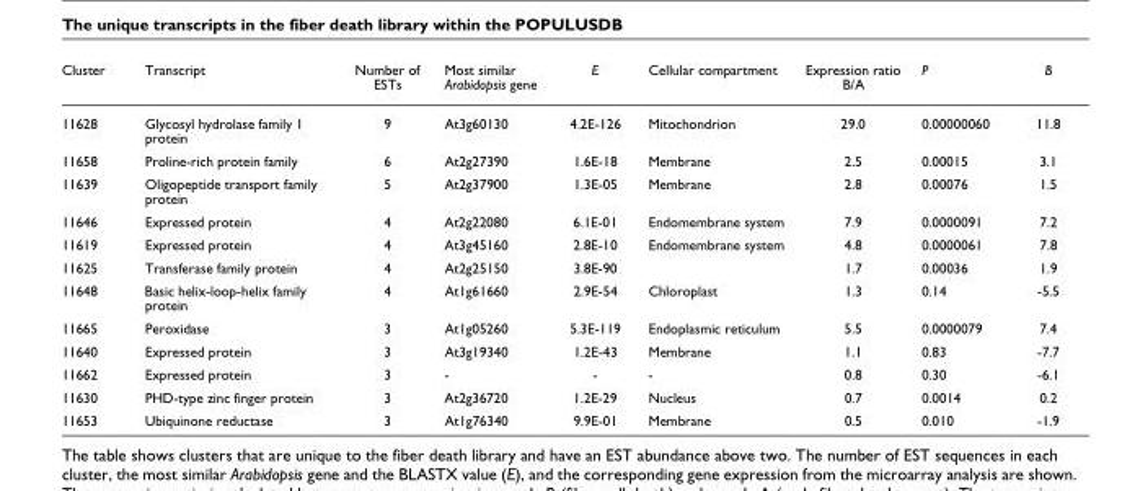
<table><thead><tr><td>Cluster</td><td>Transcript</td><td>Number of ESTs</td><td>Most similar Arabidopsis gene</td><td>E</td><td>Cellular compartment</td><td>Expression ratio B/A</td><td>P</td><td>B</td></tr></thead><tbody><tr><td>11628</td><td>Glycosyl hydrolase family 1 protein</td><td>9</td><td>At3g60130</td><td>4.2E-126</td><td>Mitochondrion</td><td>29.0</td><td>0.00000060</td><td>11.8</td></tr><tr><td>11658</td><td>Proline-rich protein family</td><td>6</td><td>At2g27390</td><td>1.6E-18</td><td>Membrane</td><td>2.5</td><td>0.00015</td><td>3.1</td></tr><tr><td>11639</td><td>Oligopeptide transport family protein</td><td>5</td><td>At2g37900</td><td>1.3E-05</td><td>Membrane</td><td>2.8</td><td>0.00076</td><td>1.5</td></tr><tr><td>11646</td><td>Expressed protein</td><td>4</td><td>At2g22080</td><td>6.1E-01</td><td>Endomembrane system</td><td>7.9</td><td>0.0000091</td><td>7.2</td></tr><tr><td>11619</td><td>Expressed protein</td><td>4</td><td>At3g45160</td><td>2.8E-10</td><td>Endomembrane system</td><td>4.8</td><td>0.0000061</td><td>7.8</td></tr><tr><td>11625</td><td>Transferase family protein</td><td>4</td><td>At2g25150</td><td>3.8E-90</td><td></td><td>1.7</td><td>0.00036</td><td>1.9</td></tr><tr><td>11648</td><td>Basic helix-loop-helix family protein</td><td>4</td><td>At1g61660</td><td>2.9E-54</td><td>Chloroplast</td><td>1.3</td><td>0.14</td><td>-5.5</td></tr><tr><td>11665</td><td>Peroxidase</td><td>3</td><td>At1g05260</td><td>5.3E-119</td><td>Endoplasmic reticulum</td><td>5.5</td><td>0.0000079</td><td>7.4</td></tr><tr><td>11640</td><td>Expressed protein</td><td>3</td><td>At3g19340</td><td>1.2E-43</td><td>Membrane</td><td>1.1</td><td>0.83</td><td>-7.7</td></tr><tr><td>11662</td><td>Expressed protein</td><td>3</td><td>-</td><td>-</td><td>-</td><td>0.8</td><td>0.30</td><td>-6.1</td></tr><tr><td>11630</td><td>PHD-type zinc finger protein</td><td>3</td><td>At2g36720</td><td>1.2E-29</td><td>Nucleus</td><td>0.7</td><td>0.0014</td><td>0.2</td></tr><tr><td>11653</td><td>Ubiquinone reductase</td><td>3</td><td>At1g76340</td><td>9.9E-01</td><td>Membrane</td><td>0.5</td><td>0.010</td><td>-1.9</td></tr></tbody></table>